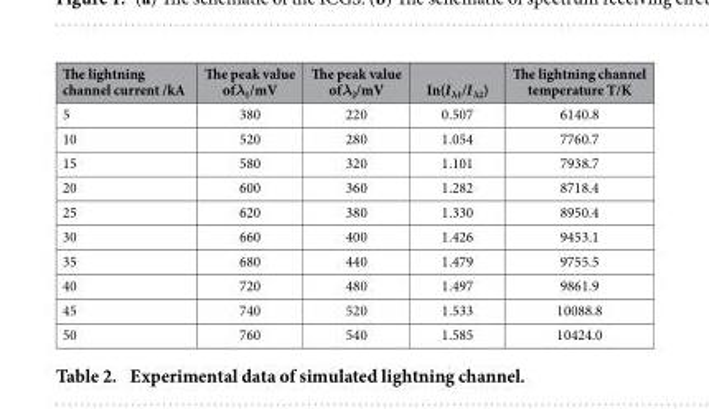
<table><thead><tr><td>The lightning channel current /kA</td><td>The peak value ofλ<sub>1</sub>/mV</td><td>The peak value ofλ<sub>2</sub>/mV</td><td>In(I<sub>λ1</sub>/I<sub>λ2</sub>)</td><td>The lightning channel temperature T/K</td></tr></thead><tbody><tr><td>5</td><td>380</td><td>220</td><td>0.507</td><td>6140.8</td></tr><tr><td>10</td><td>520</td><td>280</td><td>1.054</td><td>7760.7</td></tr><tr><td>15</td><td>580</td><td>320</td><td>1.101</td><td>7938.7</td></tr><tr><td>20</td><td>600</td><td>360</td><td>1.282</td><td>8718.4</td></tr><tr><td>25</td><td>620</td><td>380</td><td>1.330</td><td>8950.4</td></tr><tr><td>30</td><td>660</td><td>400</td><td>1.426</td><td>9453.1</td></tr><tr><td>35</td><td>680</td><td>440</td><td>1.479</td><td>9755.5</td></tr><tr><td>40</td><td>720</td><td>480</td><td>1.497</td><td>9861.9</td></tr><tr><td>45</td><td>740</td><td>520</td><td>1.533</td><td>10088.8</td></tr><tr><td>50</td><td>760</td><td>540</td><td>1.585</td><td>10424.0</td></tr></tbody></table>